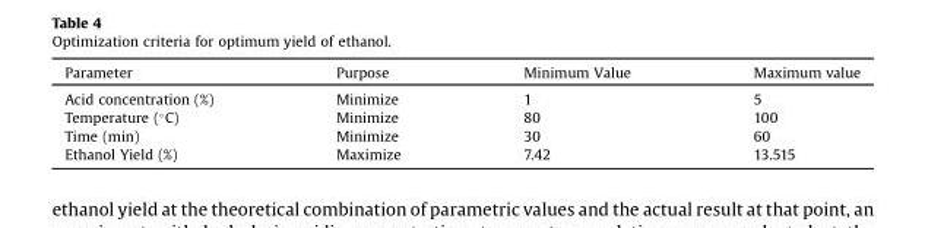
<table><thead><tr><td>Parameter</td><td>Purpose</td><td>Minimum Value</td><td>Maximum value</td></tr></thead><tbody><tr><td>Acid concentration (%)</td><td>Minimize</td><td>1</td><td>5</td></tr><tr><td>Temperature (°C)</td><td>Minimize</td><td>80</td><td>100</td></tr><tr><td>Time (min)</td><td>Minimize</td><td>30</td><td>60</td></tr><tr><td>Ethanol Yield (%)</td><td>Maximize</td><td>7.42</td><td>13.515</td></tr></tbody></table>